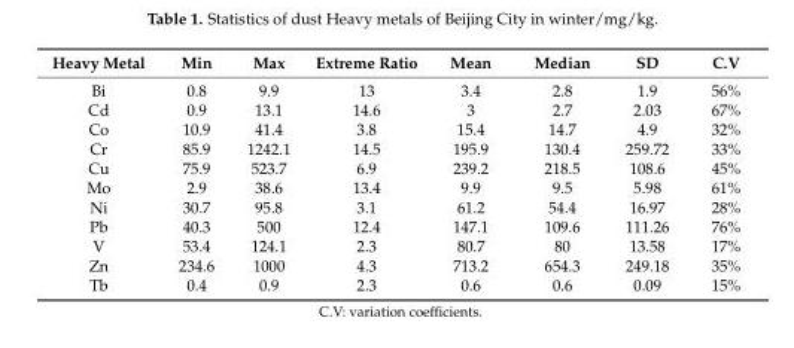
<table><thead><tr><td>Heavy Metal</td><td>Min</td><td>Max</td><td>Extreme Ratio</td><td>Mean</td><td>Median</td><td>SD</td><td>C.V</td></tr></thead><tbody><tr><td>Bi</td><td>0.8</td><td>9.9</td><td>13</td><td>3.4</td><td>2.8</td><td>1.9</td><td>56%</td></tr><tr><td>Cd</td><td>0.9</td><td>13.1</td><td>14.6</td><td>3</td><td>2.7</td><td>2.03</td><td>67%</td></tr><tr><td>Co</td><td>10.9</td><td>41.4</td><td>3.8</td><td>15.4</td><td>14.7</td><td>4.9</td><td>32%</td></tr><tr><td>Cr</td><td>85.9</td><td>1242.1</td><td>14.5</td><td>195.9</td><td>130.4</td><td>259.72</td><td>33%</td></tr><tr><td>Cu</td><td>75.9</td><td>523.7</td><td>6.9</td><td>239.2</td><td>218.5</td><td>108.6</td><td>45%</td></tr><tr><td>Mo</td><td>2.9</td><td>38.6</td><td>13.4</td><td>9.9</td><td>9.5</td><td>5.98</td><td>61%</td></tr><tr><td>Ni</td><td>30.7</td><td>95.8</td><td>3.1</td><td>61.2</td><td>54.4</td><td>16.97</td><td>28%</td></tr><tr><td>Pb</td><td>40.3</td><td>500</td><td>12.4</td><td>147.1</td><td>109.6</td><td>111.26</td><td>76%</td></tr><tr><td>V</td><td>53.4</td><td>124.1</td><td>2.3</td><td>80.7</td><td>80</td><td>13.58</td><td>17%</td></tr><tr><td>Zn</td><td>234.6</td><td>1000</td><td>4.3</td><td>713.2</td><td>654.3</td><td>249.18</td><td>35%</td></tr><tr><td>Tb</td><td>0.4</td><td>0.9</td><td>2.3</td><td>0.6</td><td>0.6</td><td>0.09</td><td>15%</td></tr></tbody></table>